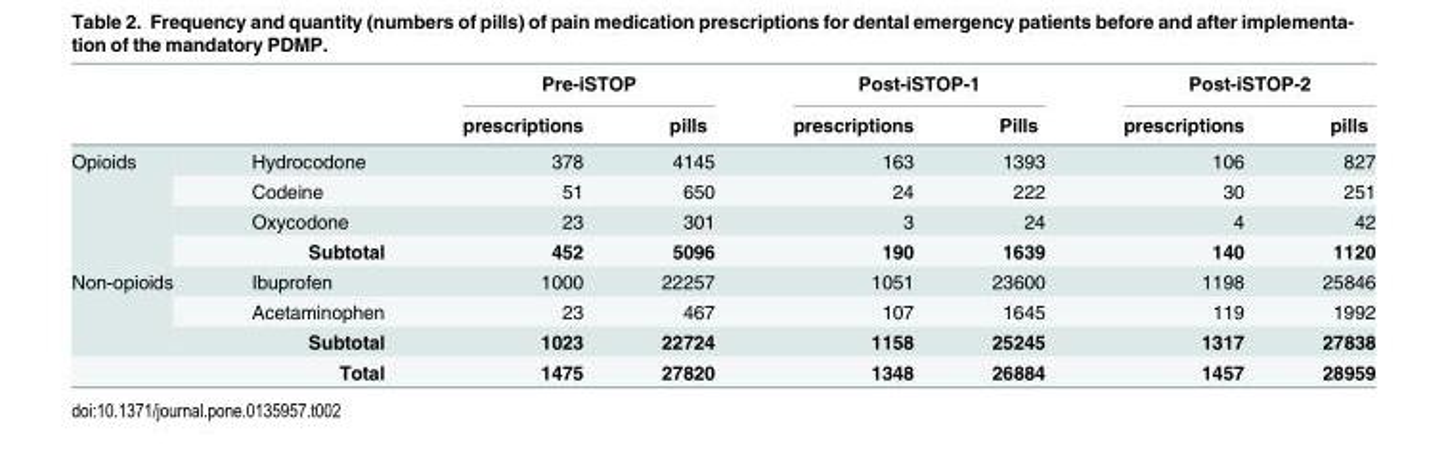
<table><thead><tr><td rowspan="2"></td><td rowspan="2"></td><td colspan="2">Pre-iSTOP</td><td colspan="2">Post-iSTOP-1</td><td colspan="2">Post-iSTOP-2</td></tr><tr><td>prescriptions</td><td>pills</td><td>prescriptions</td><td>Pills</td><td>prescriptions</td><td>pills</td></tr></thead><tbody><tr><td rowspan="4">Opioids</td><td>Hydrocodone</td><td>378</td><td>4145</td><td>163</td><td>1393</td><td>106</td><td>827</td></tr><tr><td>Codeine</td><td>51</td><td>650</td><td>24</td><td>222</td><td>30</td><td>251</td></tr><tr><td>Oxycodone</td><td>23</td><td>301</td><td>3</td><td>24</td><td>4</td><td>42</td></tr><tr><td>Subtotal</td><td>452</td><td>5096</td><td>190</td><td>1639</td><td>140</td><td>1120</td></tr><tr><td rowspan="4">Non-opioids</td><td>Ibuprofen</td><td>1000</td><td>22257</td><td>1051</td><td>23600</td><td>1198</td><td>25846</td></tr><tr><td>Acetaminophen</td><td>23</td><td>467</td><td>107</td><td>1645</td><td>119</td><td>1992</td></tr><tr><td>Subtotal</td><td>1023</td><td>22724</td><td>1158</td><td>25245</td><td>1317</td><td>27838</td></tr><tr><td>Total</td><td>1475</td><td>27820</td><td>1348</td><td>26884</td><td>1457</td><td>28959</td></tr></tbody></table>